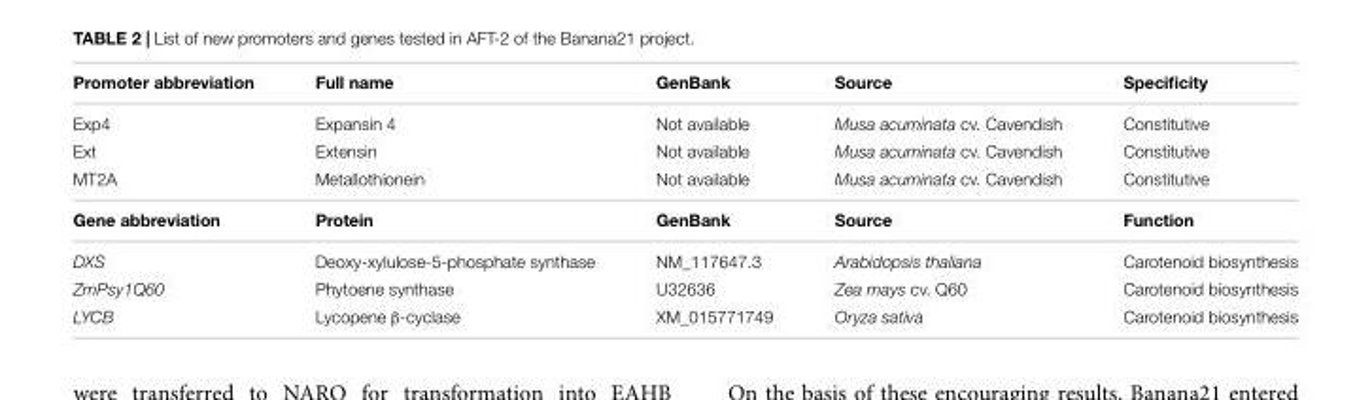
<table><thead><tr><td>Promoter abbreviation</td><td>Full name</td><td>GenBank</td><td>Source</td><td>Specificity</td></tr></thead><tbody><tr><td>Exp4</td><td>Expansin 4</td><td>Not available</td><td>Musa acuminata cv. Cavendish</td><td>Constitutive</td></tr><tr><td>Ext</td><td>Extensin</td><td>Not available</td><td>Musa acuminata cv. Cavendish</td><td>Constitutive</td></tr><tr><td>MT2A</td><td>Metallothionein</td><td>Not available</td><td>Musa acuminata cv. Cavendish</td><td>Constitutive</td></tr><tr><td>Gene abbreviation</td><td>Protein</td><td>GenBank</td><td>Source</td><td>Function</td></tr><tr><td>DXS</td><td>Deoxy-xylulose-5-phosphate synthase</td><td>NM_117647.3</td><td>Arabidopsis thaliana</td><td>Carotenoid biosynthesis</td></tr><tr><td>ZmPsy1Q60</td><td>Phytoene synthase</td><td>U32636</td><td>Zea mays cv. Q60</td><td>Carotenoid biosynthesis</td></tr><tr><td>LYCB</td><td>Lycopene β-cyclase</td><td>XM_015771749</td><td>Oryza sativa</td><td>Carotenoid biosynthesis</td></tr></tbody></table>